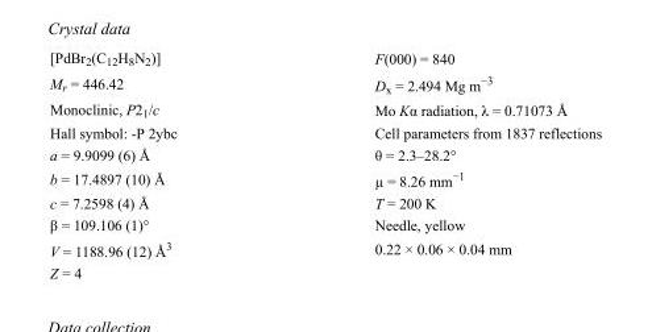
<table><tbody><tr><td>[PdBr<sub>2</sub>(C<sub>12</sub>H<sub>8</sub>N<sub>2</sub>)]</td><td>F(000) = 840</td></tr><tr><td>M<sub>r</sub> = 446.42</td><td>D<sub>x</sub> = 2.494 Mg m<sup>−3</sup></td></tr><tr><td>Monoclinic, P2<sub>1</sub>/c</td><td>Mo Kα radiation, λ = 0.71073 Å</td></tr><tr><td>Hall symbol: -P 2ybc</td><td>Cell parameters from 1837 reflections</td></tr><tr><td>a = 9.9099 (6) Å</td><td>θ = 2.3–28.2°</td></tr><tr><td>b = 17.4897 (10) Å</td><td>µ = 8.26 mm<sup>−1</sup></td></tr><tr><td>c = 7.2598 (4) Å</td><td>T = 200 K</td></tr><tr><td>β = 109.106 (1)°</td><td>Needle, yellow</td></tr><tr><td>V = 1188.96 (12) Å<sup>3</sup></td><td>0.22 × 0.06 × 0.04 mm</td></tr><tr><td>Z = 4</td><td></td></tr></tbody></table>